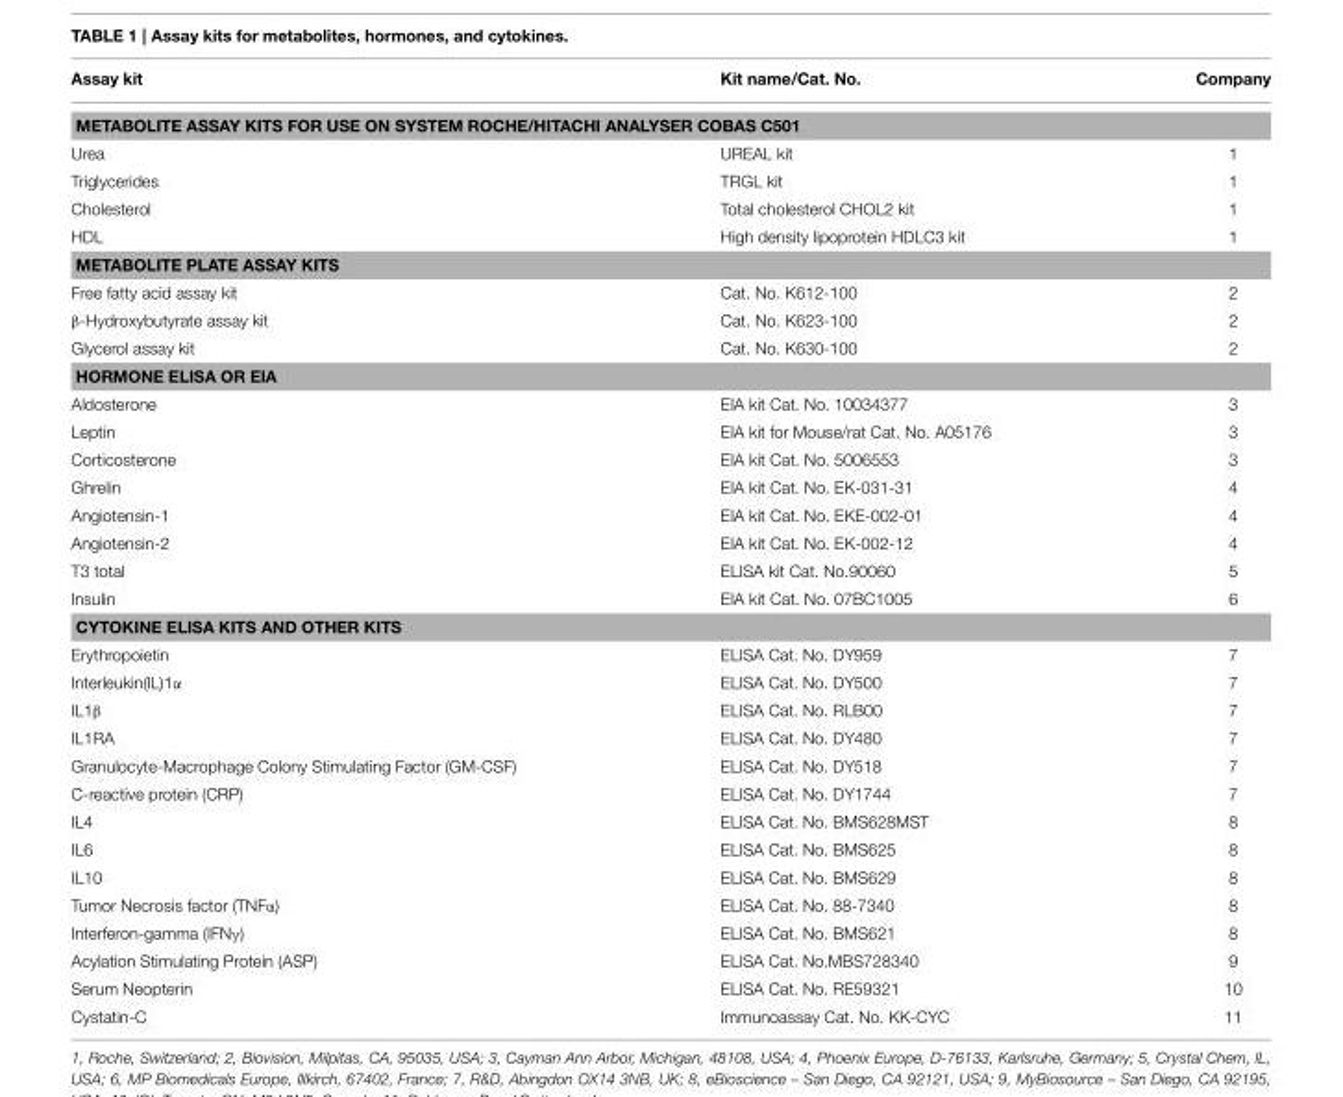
<table><thead><tr><td>Assay kit</td><td>Kit name/Cat. No.</td><td>Company</td></tr></thead><tbody><tr><td colspan="3">METABOLITE ASSAY KITS FOR USE ON SYSTEM ROCHE/HITACHI ANALYSER COBAS C501</td></tr><tr><td>Urea</td><td>UREAL kit</td><td>1</td></tr><tr><td>Triglycerides</td><td>TRGL kit</td><td>1</td></tr><tr><td>Cholesterol</td><td>Total cholesterol CHOL2 kit</td><td>1</td></tr><tr><td>HDL</td><td>High density lipoprotein HDLC3 kit</td><td>1</td></tr><tr><td colspan="3">METABOLITE PLATE ASSAY KITS</td></tr><tr><td>Free fatty acid assay kit</td><td>Cat. No. K612-100</td><td>2</td></tr><tr><td>β-Hydroxybutyrate assay kit</td><td>Cat. No. K623-100</td><td>2</td></tr><tr><td>Glycerol assay kit</td><td>Cat. No. K630-100</td><td>2</td></tr><tr><td colspan="3">HORMONE ELISA OR EIA</td></tr><tr><td>Aldosterone</td><td>EIA kit Cat. No. 10034377</td><td>3</td></tr><tr><td>Leptin</td><td>EIA kit for Mouse/rat Cat. No. A05176</td><td>3</td></tr><tr><td>Corticosterone</td><td>EIA kit Cat. No. 5006553</td><td>3</td></tr><tr><td>Ghrelin</td><td>EIA kit Cat. No. EK-031-31</td><td>4</td></tr><tr><td>Angiotensin-1</td><td>EIA kit Cat. No. EKE-002-01</td><td>4</td></tr><tr><td>Angiotensin-2</td><td>EIA kit Cat. No. EK-002-12</td><td>4</td></tr><tr><td>T3 total</td><td>ELISA kit Cat. No.90060</td><td>5</td></tr><tr><td>Insulin</td><td>EIA kit Cat. No. 07BC1005</td><td>6</td></tr><tr><td colspan="3">CYTOKINE ELISA KITS AND OTHER KITS</td></tr><tr><td>Erythropoietin</td><td>ELISA Cat. No. DY959</td><td>7</td></tr><tr><td>Interleukin(IL)1α</td><td>ELISA Cat. No. DY500</td><td>7</td></tr><tr><td>IL1β</td><td>ELISA Cat. No. RLB00</td><td>7</td></tr><tr><td>IL1RA</td><td>ELISA Cat. No. DY480</td><td>7</td></tr><tr><td>Granulocyte-Macrophage Colony Stimulating Factor (GM-CSF)</td><td>ELISA Cat. No. DY518</td><td>7</td></tr><tr><td>C-reactive protein (CRP)</td><td>ELISA Cat. No. DY1744</td><td>7</td></tr><tr><td>IL4</td><td>ELISA Cat. No. BMS628MST</td><td>8</td></tr><tr><td>IL6</td><td>ELISA Cat. No. BMS625</td><td>8</td></tr><tr><td>IL10</td><td>ELISA Cat. No. BMS629</td><td>8</td></tr><tr><td>Tumor Necrosis factor (TNFα)</td><td>ELISA Cat. No. 88-7340</td><td>8</td></tr><tr><td>Interferon-gamma (IFNγ)</td><td>ELISA Cat. No. BMS621</td><td>8</td></tr><tr><td>Acylation Stimulating Protein (ASP)</td><td>ELISA Cat. No.MBS728340</td><td>9</td></tr><tr><td>Serum Neopterin</td><td>ELISA Cat. No. RE59321</td><td>10</td></tr><tr><td>Cystatin-C</td><td>Immunoassay Cat. No. KK-CYC</td><td>11</td></tr></tbody></table>